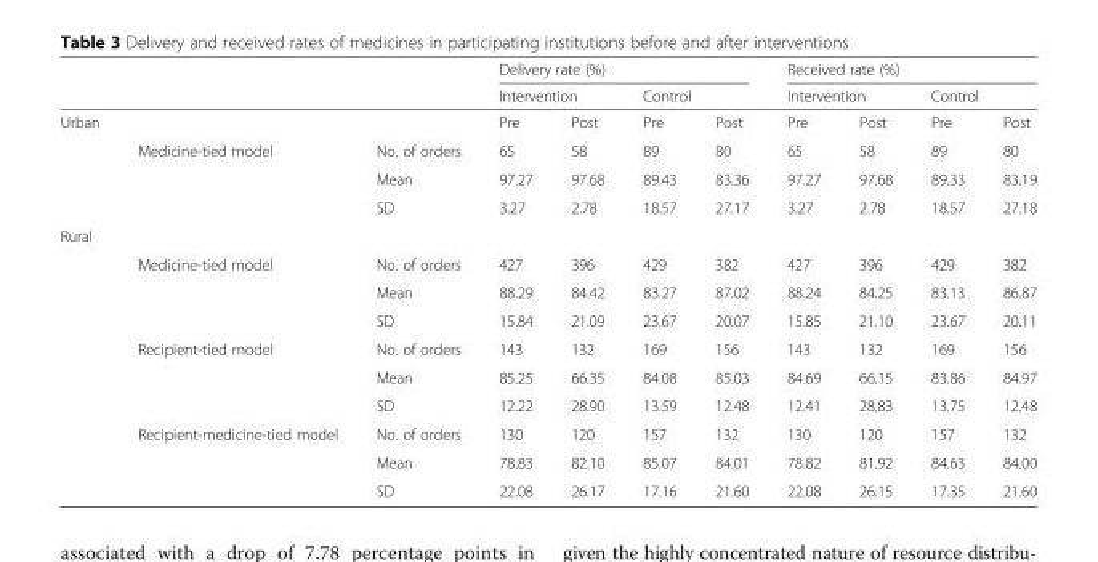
<table><thead><tr><td rowspan="3">Urban</td><td rowspan="3"></td><td rowspan="3"></td><td colspan="4">Delivery rate (%)</td><td colspan="4">Received rate (%)</td></tr><tr><td colspan="2">Intervention</td><td colspan="2">Control</td><td colspan="2">Intervention</td><td colspan="2">Control</td></tr><tr><td>Pre</td><td>Post</td><td>Pre</td><td>Post</td><td>Pre</td><td>Post</td><td>Pre</td><td>Post</td></tr></thead><tbody><tr><td rowspan="3"></td><td rowspan="3">Medicine-tied model</td><td>No. of orders</td><td>65</td><td>58</td><td>89</td><td>80</td><td>65</td><td>58</td><td>89</td><td>80</td></tr><tr><td>Mean</td><td>97.27</td><td>97.68</td><td>89.43</td><td>83.36</td><td>97.27</td><td>97.68</td><td>89.33</td><td>83.19</td></tr><tr><td>SD</td><td>3.27</td><td>2.78</td><td>18.57</td><td>27.17</td><td>3.27</td><td>2.78</td><td>18.57</td><td>27.18</td></tr><tr><td colspan="11">Rural</td></tr><tr><td rowspan="9"></td><td rowspan="3">Medicine-tied model</td><td>No. of orders</td><td>427</td><td>396</td><td>429</td><td>382</td><td>427</td><td>396</td><td>429</td><td>382</td></tr><tr><td>Mean</td><td>88.29</td><td>84.42</td><td>83.27</td><td>87.02</td><td>88.24</td><td>84.25</td><td>83.13</td><td>86.87</td></tr><tr><td>SD</td><td>15.84</td><td>21.09</td><td>23.67</td><td>20.07</td><td>15.85</td><td>21.10</td><td>23.67</td><td>20.11</td></tr><tr><td rowspan="3">Recipient-tied model</td><td>No. of orders</td><td>143</td><td>132</td><td>169</td><td>156</td><td>143</td><td>132</td><td>169</td><td>156</td></tr><tr><td>Mean</td><td>85.25</td><td>66.35</td><td>84.08</td><td>85.03</td><td>84.69</td><td>66.15</td><td>83.86</td><td>84.97</td></tr><tr><td>SD</td><td>12.22</td><td>28.90</td><td>13.59</td><td>12.48</td><td>12.41</td><td>28.83</td><td>13.75</td><td>12.48</td></tr><tr><td rowspan="3">Recipient-medicine-tied model</td><td>No. of orders</td><td>130</td><td>120</td><td>157</td><td>132</td><td>130</td><td>120</td><td>157</td><td>132</td></tr><tr><td>Mean</td><td>78.83</td><td>82.10</td><td>85.07</td><td>84.01</td><td>78.82</td><td>81.92</td><td>84.63</td><td>84.00</td></tr><tr><td>SD</td><td>22.08</td><td>26.17</td><td>17.16</td><td>21.60</td><td>22.08</td><td>26.15</td><td>17.35</td><td>21.60</td></tr></tbody></table>